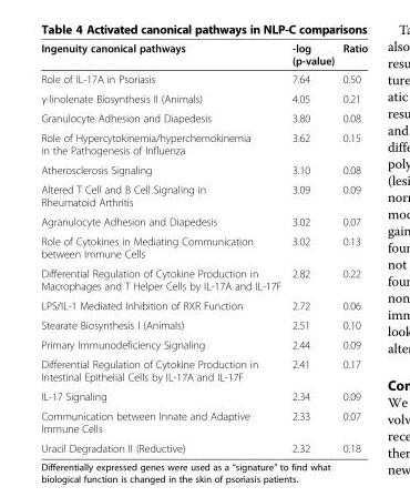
<table><thead><tr><td>Ingenuity canonical pathways</td><td>-log (p-value)</td><td>Ratio</td></tr></thead><tbody><tr><td>Role of IL-17A in Psoriasis</td><td>7.64</td><td>0.50</td></tr><tr><td>γ-linolenate Biosynthesis II (Animals)</td><td>4.05</td><td>0.21</td></tr><tr><td>Granulocyte Adhesion and Diapedesis</td><td>3.80</td><td>0.08</td></tr><tr><td>Role of Hypercytokinemia/hyperchemokinemia in the Pathogenesis of Influenza</td><td>3.62</td><td>0.15</td></tr><tr><td>Atherosclerosis Signaling</td><td>3.10</td><td>0.08</td></tr><tr><td>Altered T Cell and B Cell Signaling in Rheumatoid Arthritis</td><td>3.09</td><td>0.09</td></tr><tr><td>Agranulocyte Adhesion and Diapedesis</td><td>3.02</td><td>0.07</td></tr><tr><td>Role of Cytokines in Mediating Communication between Immune Cells</td><td>3.02</td><td>0.13</td></tr><tr><td>Differential Regulation of Cytokine Production in Macrophages and T Helper Cells by IL-17A and IL-17F</td><td>2.82</td><td>0.22</td></tr><tr><td>LPS/IL-1 Mediated Inhibition of RXR Function</td><td>2.72</td><td>0.06</td></tr><tr><td>Stearate Biosynthesis I (Animals)</td><td>2.51</td><td>0.10</td></tr><tr><td>Primary Immunodeficiency Signaling</td><td>2.44</td><td>0.09</td></tr><tr><td>Differential Regulation of Cytokine Production in Intestinal Epithelial Cells by IL-17A and IL-17F</td><td>2.41</td><td>0.17</td></tr><tr><td>IL-17 Signaling</td><td>2.34</td><td>0.09</td></tr><tr><td>Communication between Innate and Adaptive Immune Cells</td><td>2.33</td><td>0.07</td></tr><tr><td>Uracil Degradation II (Reductive)</td><td>2.32</td><td>0.18</td></tr></tbody></table>